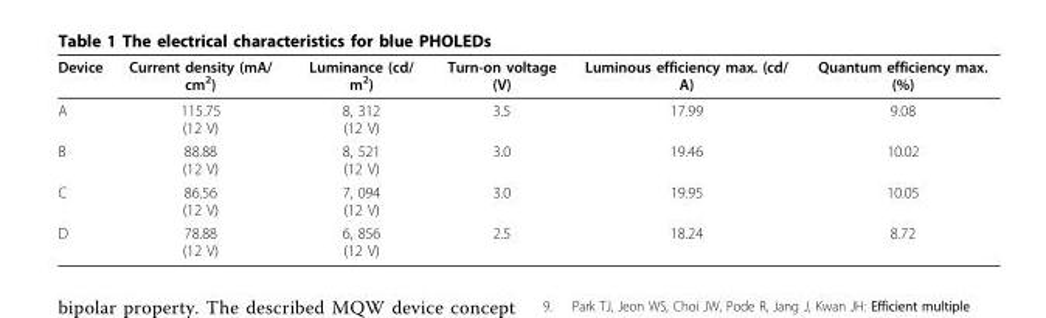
<table><thead><tr><td>Device</td><td>Current density (mA/ cm<sup>2</sup>)</td><td>Luminance (cd/ m<sup>2</sup>)</td><td>Turn-on voltage (V)</td><td>Luminous efficiency max. (cd/ A)</td><td>Quantum efficiency max. (%)</td></tr></thead><tbody><tr><td>A</td><td>115.75 (12 V)</td><td>8, 312 (12 V)</td><td>3.5</td><td>17.99</td><td>9.08</td></tr><tr><td>B</td><td>88.88 (12 V)</td><td>8, 521 (12 V)</td><td>3.0</td><td>19.46</td><td>10.02</td></tr><tr><td>C</td><td>86.56 (12 V)</td><td>7, 094 (12 V)</td><td>3.0</td><td>19.95</td><td>10.05</td></tr><tr><td>D</td><td>78.88 (12 V)</td><td>6, 856 (12 V)</td><td>2.5</td><td>18.24</td><td>8.72</td></tr></tbody></table>